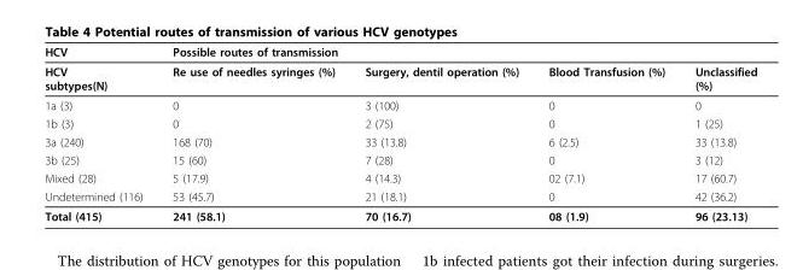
<table><thead><tr><td rowspan="2">HCV HCV subtypes(N)</td><td colspan="4">Possible routes of transmission</td></tr><tr><td>Re use of needles syringes (%)</td><td>Surgery, dentil operation (%)</td><td>Blood Transfusion (%)</td><td>Unclassified (%)</td></tr></thead><tbody><tr><td>1a (3)</td><td>0</td><td>3 (100)</td><td>0</td><td>0</td></tr><tr><td>1b (3)</td><td>0</td><td>2 (75)</td><td>0</td><td>1 (25)</td></tr><tr><td>3a (240)</td><td>168 (70)</td><td>33 (13.8)</td><td>6 (2.5)</td><td>33 (13.8)</td></tr><tr><td>3b (25)</td><td>15 (60)</td><td>7 (28)</td><td>0</td><td>3 (12)</td></tr><tr><td>Mixed (28)</td><td>5 (17.9)</td><td>4 (14.3)</td><td>02 (7.1)</td><td>17 (60.7)</td></tr><tr><td>Undetermined (116)</td><td>53 (45.7)</td><td>21 (18.1)</td><td>0</td><td>42 (36.2)</td></tr><tr><td>Total (415)</td><td>241 (58.1)</td><td>70 (16.7)</td><td>08 (1.9)</td><td>96 (23.13)</td></tr></tbody></table>